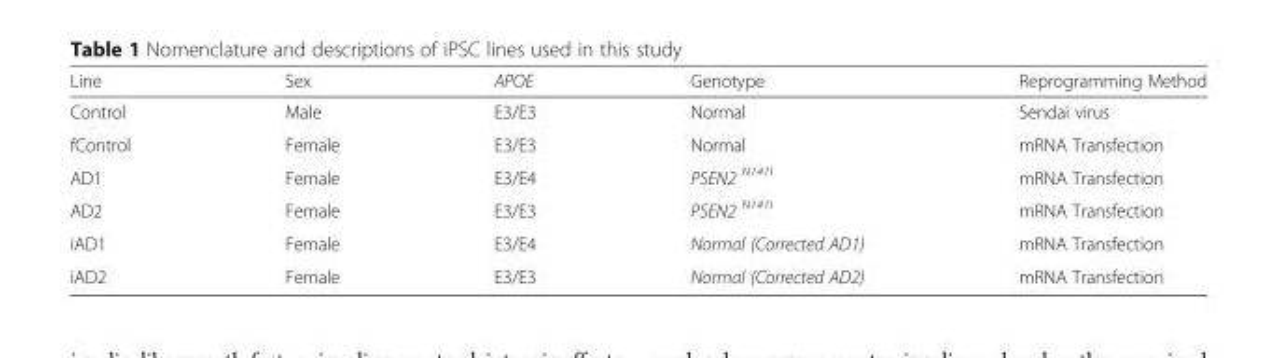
<table><thead><tr><td>Line</td><td>Sex</td><td>APOE</td><td>Genotype</td><td>Reprogramming Method</td></tr></thead><tbody><tr><td>Control</td><td>Male</td><td>E3/E3</td><td>Normal</td><td>Sendai virus</td></tr><tr><td>fControl</td><td>Female</td><td>E3/E3</td><td>Normal</td><td>mRNA Transfection</td></tr><tr><td>AD1</td><td>Female</td><td>E3/E4</td><td>PSEN2 <sup>N141I</sup></td><td>mRNA Transfection</td></tr><tr><td>AD2</td><td>Female</td><td>E3/E3</td><td>PSEN2 <sup>N141I</sup></td><td>mRNA Transfection</td></tr><tr><td>iAD1</td><td>Female</td><td>E3/E4</td><td>Normal (Corrected AD1)</td><td>mRNA Transfection</td></tr><tr><td>iAD2</td><td>Female</td><td>E3/E3</td><td>Normal (Corrected AD2)</td><td>mRNA Transfection</td></tr></tbody></table>